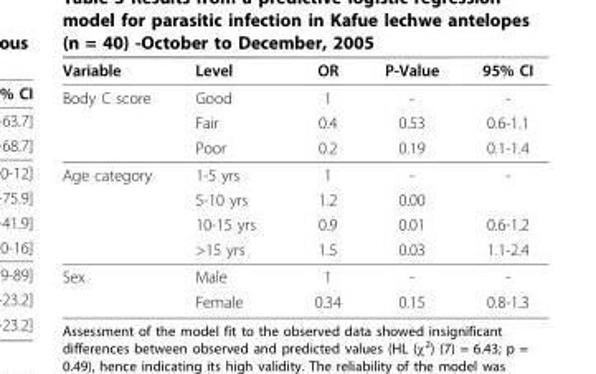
<table><thead><tr><td>Variable</td><td>Level</td><td>OR</td><td>P-Value</td><td>95% CI</td></tr></thead><tbody><tr><td rowspan="3">Body C score</td><td>Good</td><td>1</td><td>-</td><td>-</td></tr><tr><td>Fair</td><td>0.4</td><td>0.53</td><td>0.6-1.1</td></tr><tr><td>Poor</td><td>0.2</td><td>0.19</td><td>0.1-1.4</td></tr><tr><td rowspan="4">Age category</td><td>1-5 yrs</td><td>1</td><td>-</td><td>-</td></tr><tr><td>5-10 yrs</td><td>1.2</td><td>0.00</td><td></td></tr><tr><td>10-15 yrs</td><td>0.9</td><td>0.01</td><td>0.6-1.2</td></tr><tr><td>&gt;15 yrs</td><td>1.5</td><td>0.03</td><td>1.1-2.4</td></tr><tr><td rowspan="2">Sex</td><td>Male</td><td>1</td><td>-</td><td>-</td></tr><tr><td>Female</td><td>0.34</td><td>0.15</td><td>0.8-1.3</td></tr></tbody></table>